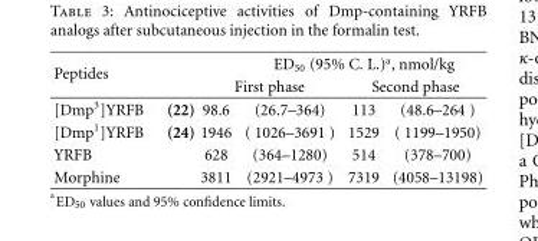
<table><tbody><tr><td rowspan="2">Peptides</td><td></td><td colspan="3">ED<sub>50</sub> (95% C. L.)<sup>a</sup>, nmol/kg</td></tr><tr><td colspan="2">First phase</td><td colspan="2">Second phase</td></tr><tr><td>[Dmp<sup>3</sup>]YRFB (22)</td><td>98.6</td><td>(26.7–364)</td><td>113</td><td>(48.6–264 )</td></tr><tr><td>[Dmp<sup>1</sup>]YRFB (24)</td><td>1946</td><td>( 1026–3691 )</td><td>1529</td><td>( 1199–1950)</td></tr><tr><td>YRFB</td><td>628</td><td>(364–1280)</td><td>514</td><td>(378–700)</td></tr><tr><td>Morphine</td><td>3811</td><td>(2921–4973 )</td><td>7319</td><td>(4058–13198)</td></tr></tbody></table>